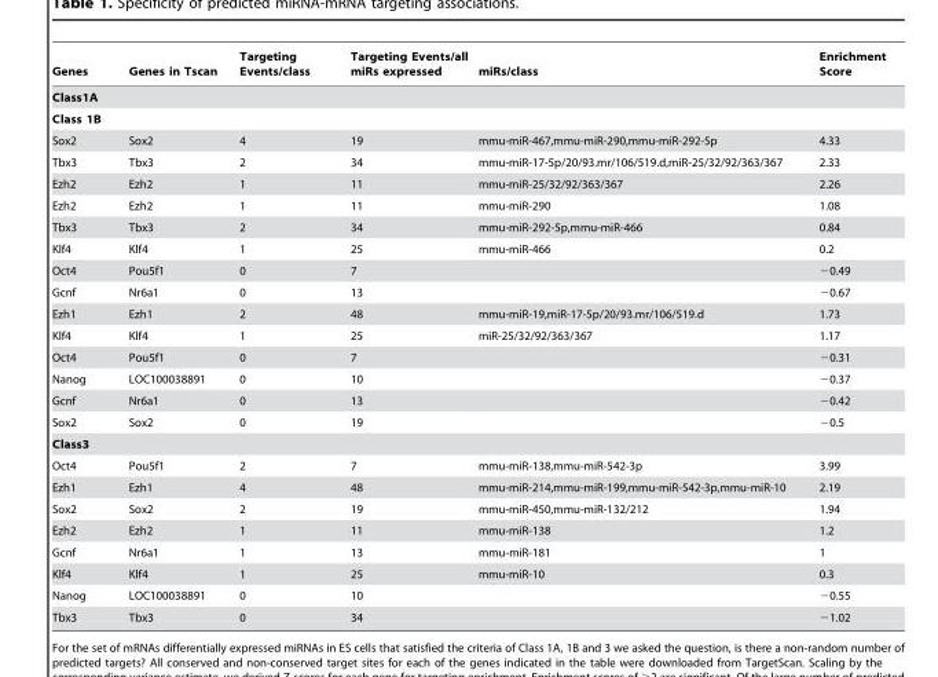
<table><thead><tr><td>Genes</td><td>Genes in Tscan</td><td>Targeting Events/class</td><td>Targeting Events/all miRs expressed</td><td>miRs/class</td><td>Enrichment Score</td></tr></thead><tbody><tr><td colspan="6">Class1A</td></tr><tr><td colspan="6">Class 1B</td></tr><tr><td>Sox2</td><td>Sox2</td><td>4</td><td>19</td><td>mmu-miR-467,mmu-miR-290,mmu-miR-292-5p</td><td>4.33</td></tr><tr><td>Tbx3</td><td>Tbx3</td><td>2</td><td>34</td><td>mmu-miR-17-5p/20/93.mr/106/519.d,miR-25/32/92/363/367</td><td>2.33</td></tr><tr><td>Ezh2</td><td>Ezh2</td><td>1</td><td>11</td><td>mmu-miR-25/32/92/363/367</td><td>2.26</td></tr><tr><td>Ezh2</td><td>Ezh2</td><td>1</td><td>11</td><td>mmu-miR-290</td><td>1.08</td></tr><tr><td>Tbx3</td><td>Tbx3</td><td>2</td><td>34</td><td>mmu-miR-292-5p,mmu-miR-466</td><td>0.84</td></tr><tr><td>Klf4</td><td>Klf4</td><td>1</td><td>25</td><td>mmu-miR-466</td><td>0.2</td></tr><tr><td>Oct4</td><td>Pou5f1</td><td>0</td><td>7</td><td></td><td>−0.49</td></tr><tr><td>Gcnf</td><td>Nr6a1</td><td>0</td><td>13</td><td></td><td>−0.67</td></tr><tr><td>Ezh1</td><td>Ezh1</td><td>2</td><td>48</td><td>mmu-miR-19,miR-17-5p/20/93.mr/106/519.d</td><td>1.73</td></tr><tr><td>Klf4</td><td>Klf4</td><td>1</td><td>25</td><td>miR-25/32/92/363/367</td><td>1.17</td></tr><tr><td>Oct4</td><td>Pou5f1</td><td>0</td><td>7</td><td></td><td>−0.31</td></tr><tr><td>Nanog</td><td>LOC100038891</td><td>0</td><td>10</td><td></td><td>−0.37</td></tr><tr><td>Gcnf</td><td>Nr6a1</td><td>0</td><td>13</td><td></td><td>−0.42</td></tr><tr><td>Sox2</td><td>Sox2</td><td>0</td><td>19</td><td></td><td>−0.5</td></tr><tr><td colspan="6">Class3</td></tr><tr><td>Oct4</td><td>Pou5f1</td><td>2</td><td>7</td><td>mmu-miR-138,mmu-miR-542-3p</td><td>3.99</td></tr><tr><td>Ezh1</td><td>Ezh1</td><td>4</td><td>48</td><td>mmu-miR-214,mmu-miR-199,mmu-miR-542-3p,mmu-miR-10</td><td>2.19</td></tr><tr><td>Sox2</td><td>Sox2</td><td>2</td><td>19</td><td>mmu-miR-450,mmu-miR-132/212</td><td>1.94</td></tr><tr><td>Ezh2</td><td>Ezh2</td><td>1</td><td>11</td><td>mmu-miR-138</td><td>1.2</td></tr><tr><td>Gcnf</td><td>Nr6a1</td><td>1</td><td>13</td><td>mmu-miR-181</td><td>1</td></tr><tr><td>Klf4</td><td>Klf4</td><td>1</td><td>25</td><td>mmu-miR-10</td><td>0.3</td></tr><tr><td>Nanog</td><td>LOC100038891</td><td>0</td><td>10</td><td></td><td>−0.55</td></tr><tr><td>Tbx3</td><td>Tbx3</td><td>0</td><td>34</td><td></td><td>−1.02</td></tr></tbody></table>